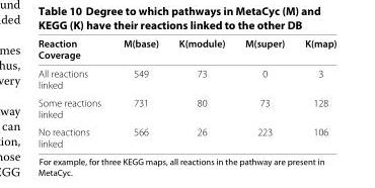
<table><thead><tr><td>Reaction Coverage</td><td>M(base)</td><td>K(module)</td><td>M(super)</td><td>K(map)</td></tr></thead><tbody><tr><td>All reactions linked</td><td>549</td><td>73</td><td>0</td><td>3</td></tr><tr><td>Some reactions linked</td><td>731</td><td>80</td><td>73</td><td>128</td></tr><tr><td>No reactions linked</td><td>566</td><td>26</td><td>223</td><td>106</td></tr></tbody></table>